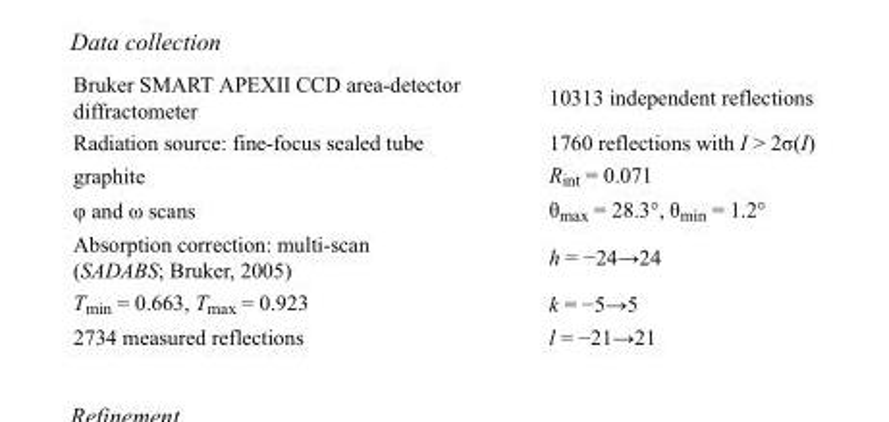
<table><tbody><tr><td>Bruker SMART APEXII CCD area-detector diffractometer</td><td>10313 independent reflections</td></tr><tr><td>Radiation source: fine-focus sealed tube</td><td>1760 reflections with I &gt; 2σ(I)</td></tr><tr><td>graphite</td><td>R<sub>int</sub> = 0.071</td></tr><tr><td>φ and ω scans</td><td>θ<sub>max</sub> = 28.3°, θ<sub>min</sub> = 1.2°</td></tr><tr><td>Absorption correction: multi-scan (SADABS; Bruker, 2005)</td><td>h = −24→24</td></tr><tr><td>T<sub>min</sub> = 0.663, T<sub>max</sub> = 0.923</td><td>k = −5→5</td></tr><tr><td>2734 measured reflections</td><td>l = −21→21</td></tr></tbody></table>